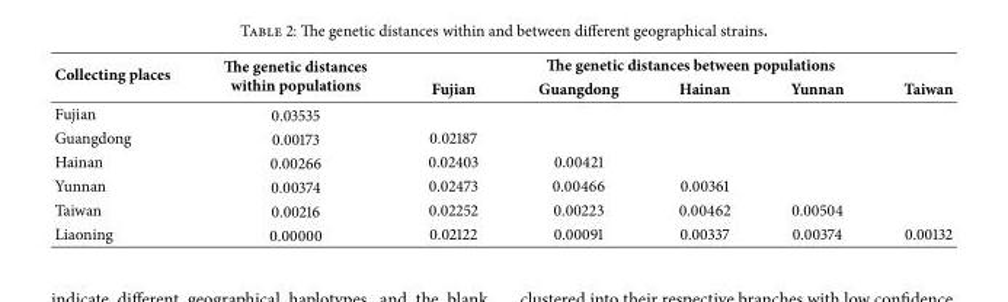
<table><thead><tr><td rowspan="2">Collecting places</td><td rowspan="2">Te genetic distances within populations</td><td colspan="5">Te genetic distances between populations</td></tr><tr><td>Fujian</td><td>Guangdong</td><td>Hainan</td><td>Yunnan</td><td>Taiwan</td></tr></thead><tbody><tr><td>Fujian</td><td>0.03535</td><td></td><td></td><td></td><td></td><td></td></tr><tr><td>Guangdong</td><td>0.00173</td><td>0.02187</td><td></td><td></td><td></td><td></td></tr><tr><td>Hainan</td><td>0.00266</td><td>0.02403</td><td>0.00421</td><td></td><td></td><td></td></tr><tr><td>Yunnan</td><td>0.00374</td><td>0.02473</td><td>0.00466</td><td>0.00361</td><td></td><td></td></tr><tr><td>Taiwan</td><td>0.00216</td><td>0.02252</td><td>0.00223</td><td>0.00462</td><td>0.00504</td><td></td></tr><tr><td>Liaoning</td><td>0.00000</td><td>0.02122</td><td>0.00091</td><td>0.00337</td><td>0.00374</td><td>0.00132</td></tr></tbody></table>